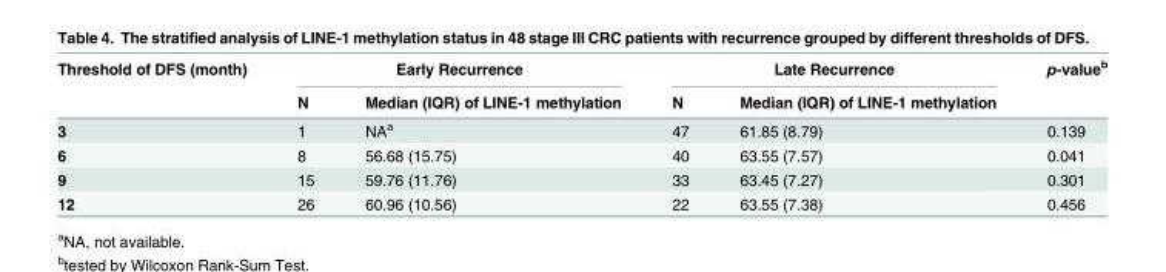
<table><thead><tr><td rowspan="2">Threshold of DFS (month)</td><td colspan="2">Early Recurrence</td><td colspan="2">Late Recurrence</td><td rowspan="2">p-value<sup>b</sup></td></tr><tr><td>N</td><td>Median (IQR) of LINE-1 methylation</td><td>N</td><td>Median (IQR) of LINE-1 methylation</td></tr></thead><tbody><tr><td>3</td><td>1</td><td>NA<sup>a</sup></td><td>47</td><td>61.85 (8.79)</td><td>0.139</td></tr><tr><td>6</td><td>8</td><td>56.68 (15.75)</td><td>40</td><td>63.55 (7.57)</td><td>0.041</td></tr><tr><td>9</td><td>15</td><td>59.76 (11.76)</td><td>33</td><td>63.45 (7.27)</td><td>0.301</td></tr><tr><td>12</td><td>26</td><td>60.96 (10.56)</td><td>22</td><td>63.55 (7.38)</td><td>0.456</td></tr></tbody></table>